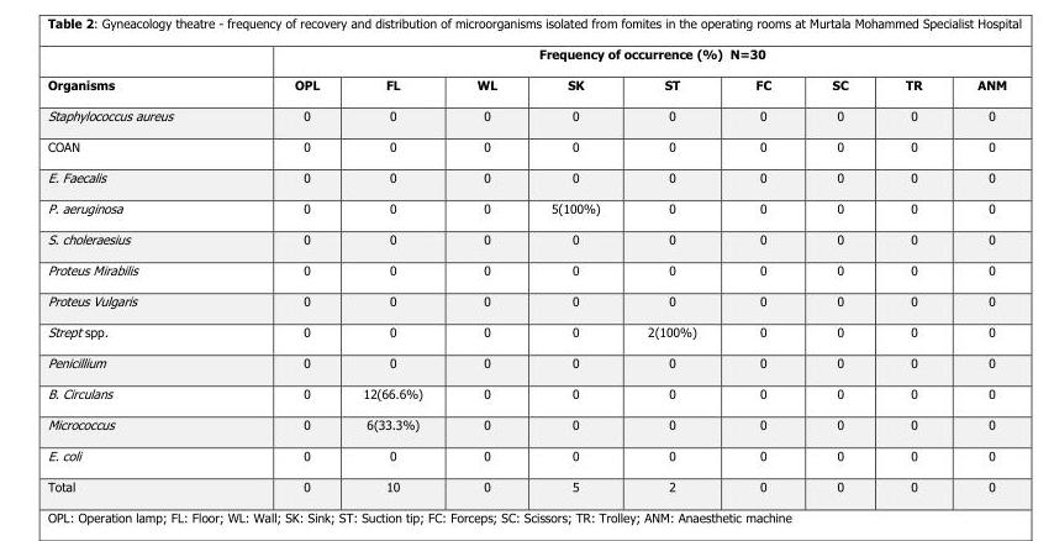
<table><thead><tr><td rowspan="2">Organisms</td><td colspan="9">Frequency of occurrence (%) N=30</td></tr><tr><td>OPL</td><td>FL</td><td>WL</td><td>SK</td><td>ST</td><td>FC</td><td>SC</td><td>TR</td><td>ANM</td></tr></thead><tbody><tr><td>Staphylococcus aureus</td><td>0</td><td>0</td><td>0</td><td>0</td><td>0</td><td>0</td><td>0</td><td>0</td><td>0</td></tr><tr><td>COAN</td><td>0</td><td>0</td><td>0</td><td>0</td><td>0</td><td>0</td><td>0</td><td>0</td><td>0</td></tr><tr><td>E. Faecalis</td><td>0</td><td>0</td><td>0</td><td>0</td><td>0</td><td>0</td><td>0</td><td>0</td><td>0</td></tr><tr><td>P. aeruginosa</td><td>0</td><td>0</td><td>0</td><td>5(100%)</td><td>0</td><td>0</td><td>0</td><td>0</td><td>0</td></tr><tr><td>S. choleraesius</td><td>0</td><td>0</td><td>0</td><td>0</td><td>0</td><td>0</td><td>0</td><td>0</td><td>0</td></tr><tr><td>Proteus Mirabilis</td><td>0</td><td>0</td><td>0</td><td>0</td><td>0</td><td>0</td><td>0</td><td>0</td><td>0</td></tr><tr><td>Proteus Vulgaris</td><td>0</td><td>0</td><td>0</td><td>0</td><td>0</td><td>0</td><td>0</td><td>0</td><td>0</td></tr><tr><td>Strept spp.</td><td>0</td><td>0</td><td>0</td><td>0</td><td>2(100%)</td><td>0</td><td>0</td><td>0</td><td>0</td></tr><tr><td>Penicillium</td><td>0</td><td>0</td><td>0</td><td>0</td><td>0</td><td>0</td><td>0</td><td>0</td><td>0</td></tr><tr><td>B. Circulans</td><td>0</td><td>12(66.6%)</td><td>0</td><td>0</td><td>0</td><td>0</td><td>0</td><td>0</td><td>0</td></tr><tr><td>Micrococcus</td><td>0</td><td>6(33.3%)</td><td>0</td><td>0</td><td>0</td><td>0</td><td>0</td><td>0</td><td>0</td></tr><tr><td>E. coli</td><td>0</td><td>0</td><td>0</td><td>0</td><td>0</td><td>0</td><td>0</td><td>0</td><td>0</td></tr><tr><td>Total</td><td>0</td><td>10</td><td>0</td><td>5</td><td>2</td><td>0</td><td>0</td><td>0</td><td>0</td></tr></tbody></table>